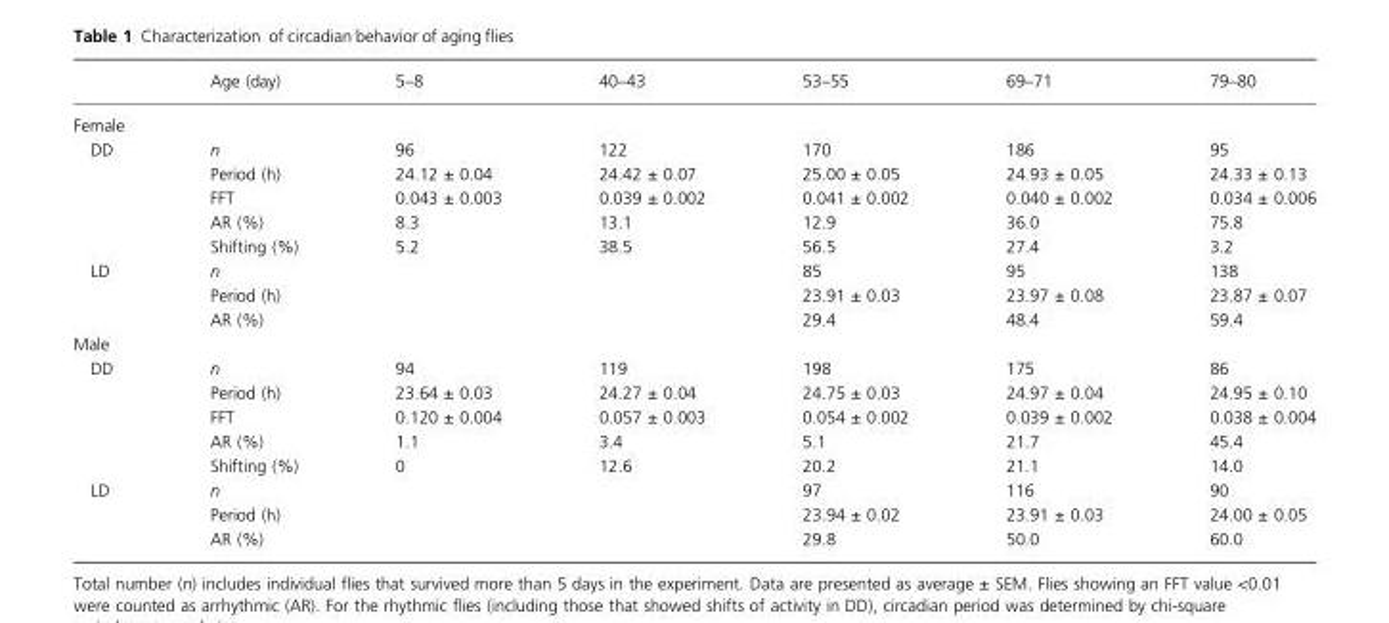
<table><thead><tr><td></td><td>Age (day)</td><td>5–8</td><td>40–43</td><td>53–55</td><td>69–71</td><td>79–80</td></tr></thead><tbody><tr><td colspan="7">Female</td></tr><tr><td rowspan="5">DD</td><td>n</td><td>96</td><td>122</td><td>170</td><td>186</td><td>95</td></tr><tr><td>Period (h)</td><td>24.12 ± 0.04</td><td>24.42 ± 0.07</td><td>25.00 ± 0.05</td><td>24.93 ± 0.05</td><td>24.33 ± 0.13</td></tr><tr><td>FFT</td><td>0.043 ± 0.003</td><td>0.039 ± 0.002</td><td>0.041 ± 0.002</td><td>0.040 ± 0.002</td><td>0.034 ± 0.006</td></tr><tr><td>AR (%)</td><td>8.3</td><td>13.1</td><td>12.9</td><td>36.0</td><td>75.8</td></tr><tr><td>Shifting (%)</td><td>5.2</td><td>38.5</td><td>56.5</td><td>27.4</td><td>3.2</td></tr><tr><td rowspan="3">LD</td><td>n</td><td></td><td></td><td>85</td><td>95</td><td>138</td></tr><tr><td>Period (h)</td><td></td><td></td><td>23.91 ± 0.03</td><td>23.97 ± 0.08</td><td>23.87 ± 0.07</td></tr><tr><td>AR (%)</td><td></td><td></td><td>29.4</td><td>48.4</td><td>59.4</td></tr><tr><td colspan="7">Male</td></tr><tr><td rowspan="5">DD</td><td>n</td><td>94</td><td>119</td><td>198</td><td>175</td><td>86</td></tr><tr><td>Period (h)</td><td>23.64 ± 0.03</td><td>24.27 ± 0.04</td><td>24.75 ± 0.03</td><td>24.97 ± 0.04</td><td>24.95 ± 0.10</td></tr><tr><td>FFT</td><td>0.120 ± 0.004</td><td>0.057 ± 0.003</td><td>0.054 ± 0.002</td><td>0.039 ± 0.002</td><td>0.038 ± 0.004</td></tr><tr><td>AR (%)</td><td>1.1</td><td>3.4</td><td>5.1</td><td>21.7</td><td>45.4</td></tr><tr><td>Shifting (%)</td><td>0</td><td>12.6</td><td>20.2</td><td>21.1</td><td>14.0</td></tr><tr><td rowspan="3">LD</td><td>n</td><td></td><td></td><td>97</td><td>116</td><td>90</td></tr><tr><td>Period (h)</td><td></td><td></td><td>23.94 ± 0.02</td><td>23.91 ± 0.03</td><td>24.00 ± 0.05</td></tr><tr><td>AR (%)</td><td></td><td></td><td>29.8</td><td>50.0</td><td>60.0</td></tr></tbody></table>